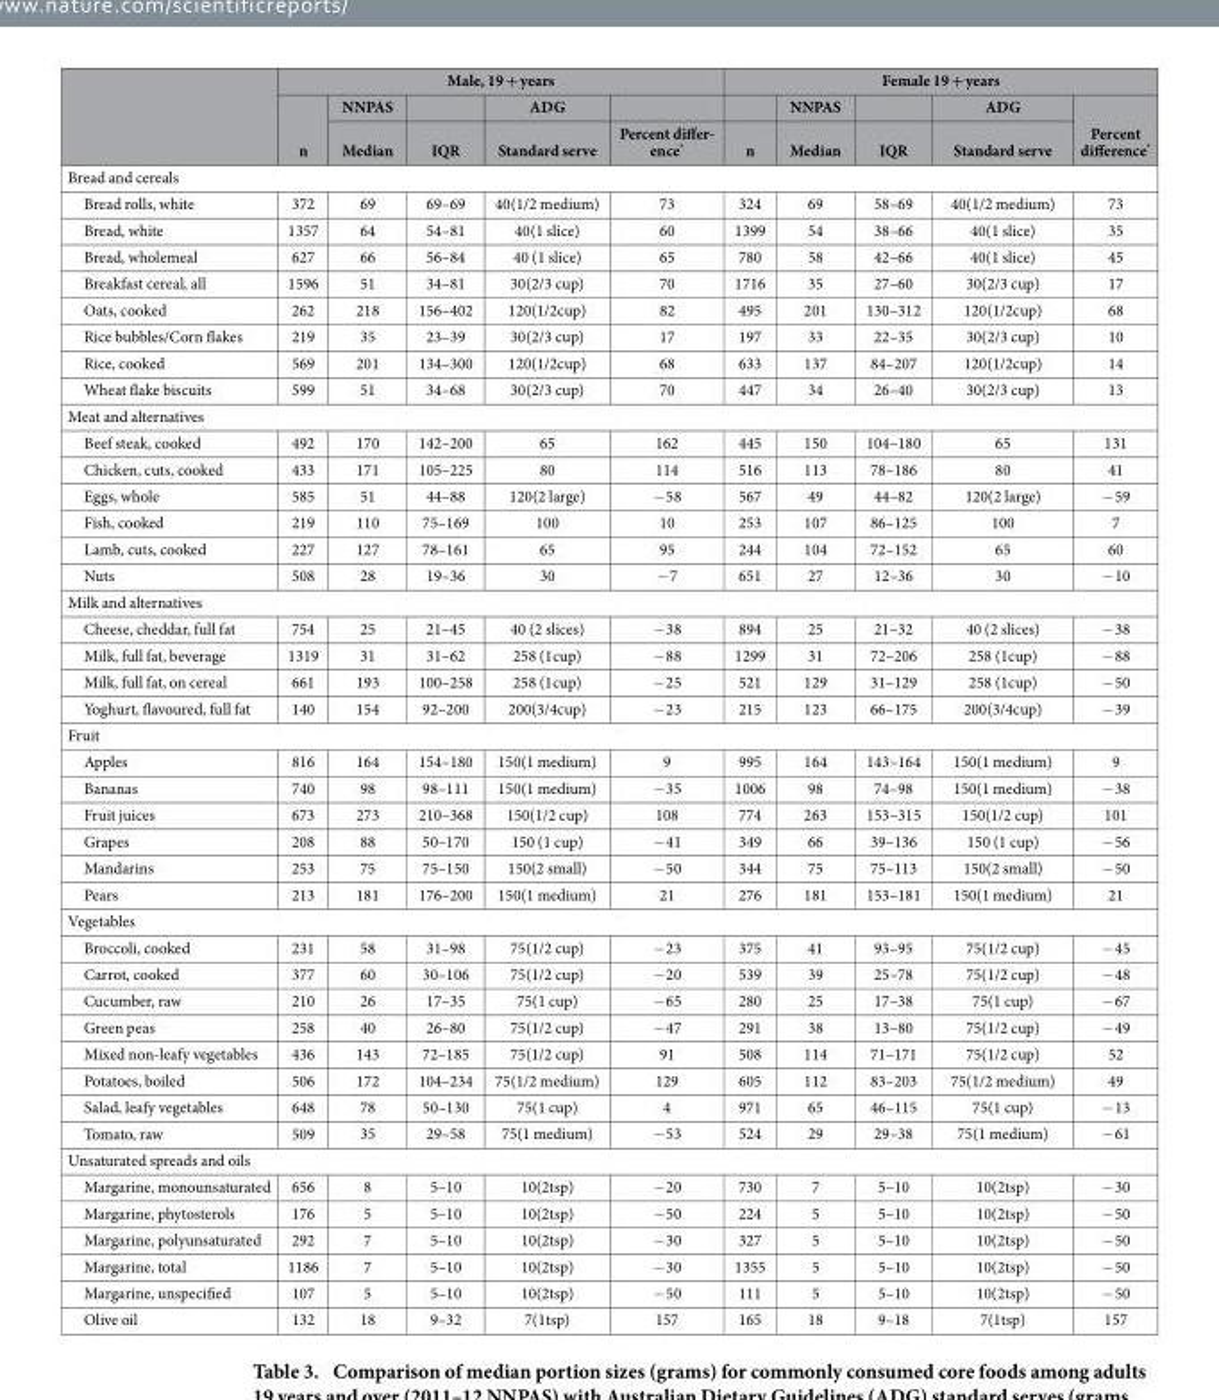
<table><thead><tr><td rowspan="3"></td><td colspan="5">Male, 19 + years</td><td colspan="5">Female 19 + years</td></tr><tr><td rowspan="2">n</td><td rowspan="2">NNPAS Median</td><td rowspan="2">IQR</td><td rowspan="2">ADG Standard serve</td><td rowspan="2">Percent differ- ence*</td><td rowspan="2">n</td><td rowspan="2">NNPAS Median</td><td rowspan="2">IQR</td><td rowspan="2">ADG Standard serve</td><td rowspan="2">Percent difference*</td></tr><tr></tr></thead><tbody><tr><td colspan="11">Bread and cereals</td></tr><tr><td>Bread rolls, white</td><td>372</td><td>69</td><td>69–69</td><td>40(1/2 medium)</td><td>73</td><td>324</td><td>69</td><td>58–69</td><td>40(1/2 medium)</td><td>73</td></tr><tr><td>Bread, white</td><td>1357</td><td>64</td><td>54–81</td><td>40(1 slice)</td><td>60</td><td>1399</td><td>54</td><td>38–66</td><td>40(1 slice)</td><td>35</td></tr><tr><td>Bread, wholemeal</td><td>627</td><td>66</td><td>56–84</td><td>40 (1 slice)</td><td>65</td><td>780</td><td>58</td><td>42–66</td><td>40(1 slice)</td><td>45</td></tr><tr><td>Breakfast cereal, all</td><td>1596</td><td>51</td><td>34–81</td><td>30(2/3 cup)</td><td>70</td><td>1716</td><td>35</td><td>27–60</td><td>30(2/3 cup)</td><td>17</td></tr><tr><td>Oats, cooked</td><td>262</td><td>218</td><td>156–402</td><td>120(1/2cup)</td><td>82</td><td>495</td><td>201</td><td>130–312</td><td>120(1/2cup)</td><td>68</td></tr><tr><td>Rice bubbles/Corn flakes</td><td>219</td><td>35</td><td>23–39</td><td>30(2/3 cup)</td><td>17</td><td>197</td><td>33</td><td>22–35</td><td>30(2/3 cup)</td><td>10</td></tr><tr><td>Rice, cooked</td><td>569</td><td>201</td><td>134–300</td><td>120(1/2cup)</td><td>68</td><td>633</td><td>137</td><td>84–207</td><td>120(1/2cup)</td><td>14</td></tr><tr><td>Wheat flake biscuits</td><td>599</td><td>51</td><td>34–68</td><td>30(2/3 cup)</td><td>70</td><td>447</td><td>34</td><td>26–40</td><td>30(2/3 cup)</td><td>13</td></tr><tr><td colspan="11">Meat and alternatives</td></tr><tr><td>Beef steak, cooked</td><td>492</td><td>170</td><td>142–200</td><td>65</td><td>162</td><td>445</td><td>150</td><td>104–180</td><td>65</td><td>131</td></tr><tr><td>Chicken, cuts, cooked</td><td>433</td><td>171</td><td>105–225</td><td>80</td><td>114</td><td>516</td><td>113</td><td>78–186</td><td>80</td><td>41</td></tr><tr><td>Eggs, whole</td><td>585</td><td>51</td><td>44–88</td><td>120(2 large)</td><td>− 58</td><td>567</td><td>49</td><td>44–82</td><td>120(2 large)</td><td>− 59</td></tr><tr><td>Fish, cooked</td><td>219</td><td>110</td><td>75–169</td><td>100</td><td>10</td><td>253</td><td>107</td><td>86–125</td><td>100</td><td>7</td></tr><tr><td>Lamb, cuts, cooked</td><td>227</td><td>127</td><td>78–161</td><td>65</td><td>95</td><td>244</td><td>104</td><td>72–152</td><td>65</td><td>60</td></tr><tr><td>Nuts</td><td>508</td><td>28</td><td>19–36</td><td>30</td><td>− 7</td><td>651</td><td>27</td><td>12–36</td><td>30</td><td>− 10</td></tr><tr><td colspan="11">Milk and alternatives</td></tr><tr><td>Cheese, cheddar, full fat</td><td>754</td><td>25</td><td>21–45</td><td>40 (2 slices)</td><td>− 38</td><td>894</td><td>25</td><td>21–32</td><td>40 (2 slices)</td><td>− 38</td></tr><tr><td>Milk, full fat, beverage</td><td>1319</td><td>31</td><td>31–62</td><td>258 (1cup)</td><td>− 88</td><td>1299</td><td>31</td><td>72–206</td><td>258 (1cup)</td><td>− 88</td></tr><tr><td>Milk, full fat, on cereal</td><td>661</td><td>193</td><td>100–258</td><td>258 (1cup)</td><td>− 25</td><td>521</td><td>129</td><td>31–129</td><td>258 (1cup)</td><td>− 50</td></tr><tr><td>Yoghurt, flavoured, full fat</td><td>140</td><td>154</td><td>92–200</td><td>200(3/4cup)</td><td>− 23</td><td>215</td><td>123</td><td>66–175</td><td>200(3/4cup)</td><td>− 39</td></tr><tr><td colspan="11">Fruit</td></tr><tr><td>Apples</td><td>816</td><td>164</td><td>154–180</td><td>150(1 medium)</td><td>9</td><td>995</td><td>164</td><td>143–164</td><td>150(1 medium)</td><td>9</td></tr><tr><td>Bananas</td><td>740</td><td>98</td><td>98–111</td><td>150(1 medium)</td><td>− 35</td><td>1006</td><td>98</td><td>74–98</td><td>150(1 medium)</td><td>− 38</td></tr><tr><td>Fruit juices</td><td>673</td><td>273</td><td>210–368</td><td>150(1/2 cup)</td><td>108</td><td>774</td><td>263</td><td>153–315</td><td>150(1/2 cup)</td><td>101</td></tr><tr><td>Grapes</td><td>208</td><td>88</td><td>50–170</td><td>150 (1 cup)</td><td>− 41</td><td>349</td><td>66</td><td>39–136</td><td>150 (1 cup)</td><td>− 56</td></tr><tr><td>Mandarins</td><td>253</td><td>75</td><td>75–150</td><td>150(2 small)</td><td>− 50</td><td>344</td><td>75</td><td>75–113</td><td>150(2 small)</td><td>− 50</td></tr><tr><td>Pears</td><td>213</td><td>181</td><td>176–200</td><td>150(1 medium)</td><td>21</td><td>276</td><td>181</td><td>153–181</td><td>150(1 medium)</td><td>21</td></tr><tr><td colspan="11">Vegetables</td></tr><tr><td>Broccoli, cooked</td><td>231</td><td>58</td><td>31–98</td><td>75(1/2 cup)</td><td>− 23</td><td>375</td><td>41</td><td>93–95</td><td>75(1/2 cup)</td><td>− 45</td></tr><tr><td>Carrot, cooked</td><td>377</td><td>60</td><td>30–106</td><td>75(1/2 cup)</td><td>− 20</td><td>539</td><td>39</td><td>25–78</td><td>75(1/2 cup)</td><td>− 48</td></tr><tr><td>Cucumber, raw</td><td>210</td><td>26</td><td>17–35</td><td>75(1 cup)</td><td>− 65</td><td>280</td><td>25</td><td>17–38</td><td>75(1 cup)</td><td>− 67</td></tr><tr><td>Green peas</td><td>258</td><td>40</td><td>26–80</td><td>75(1/2 cup)</td><td>− 47</td><td>291</td><td>38</td><td>13–80</td><td>75(1/2 cup)</td><td>− 49</td></tr><tr><td>Mixed non-leafy vegetables</td><td>436</td><td>143</td><td>72–185</td><td>75(1/2 cup)</td><td>91</td><td>508</td><td>114</td><td>71–171</td><td>75(1/2 cup)</td><td>52</td></tr><tr><td>Potatoes, boiled</td><td>506</td><td>172</td><td>104–234</td><td>75(1/2 medium)</td><td>129</td><td>605</td><td>112</td><td>83–203</td><td>75(1/2 medium)</td><td>49</td></tr><tr><td>Salad, leafy vegetables</td><td>648</td><td>78</td><td>50–130</td><td>75(1 cup)</td><td>4</td><td>971</td><td>65</td><td>46–115</td><td>75(1 cup)</td><td>− 13</td></tr><tr><td>Tomato, raw</td><td>509</td><td>35</td><td>29–58</td><td>75(1 medium)</td><td>− 53</td><td>524</td><td>29</td><td>29–38</td><td>75(1 medium)</td><td>− 61</td></tr><tr><td colspan="11">Unsaturated spreads and oils</td></tr><tr><td>Margarine, monounsaturated</td><td>656</td><td>8</td><td>5–10</td><td>10(2tsp)</td><td>− 20</td><td>730</td><td>7</td><td>5–10</td><td>10(2tsp)</td><td>− 30</td></tr><tr><td>Margarine, phytosterols</td><td>176</td><td>5</td><td>5–10</td><td>10(2tsp)</td><td>− 50</td><td>224</td><td>5</td><td>5–10</td><td>10(2tsp)</td><td>− 50</td></tr><tr><td>Margarine, polyunsaturated</td><td>292</td><td>7</td><td>5–10</td><td>10(2tsp)</td><td>− 30</td><td>327</td><td>5</td><td>5–10</td><td>10(2tsp)</td><td>− 50</td></tr><tr><td>Margarine, total</td><td>1186</td><td>7</td><td>5–10</td><td>10(2tsp)</td><td>− 30</td><td>1355</td><td>5</td><td>5–10</td><td>10(2tsp)</td><td>− 50</td></tr><tr><td>Margarine, unspecified</td><td>107</td><td>5</td><td>5–10</td><td>10(2tsp)</td><td>− 50</td><td>111</td><td>5</td><td>5–10</td><td>10(2tsp)</td><td>− 50</td></tr><tr><td>Olive oil</td><td>132</td><td>18</td><td>9–32</td><td>7(1tsp)</td><td>157</td><td>165</td><td>18</td><td>9–18</td><td>7(1tsp)</td><td>157</td></tr></tbody></table>